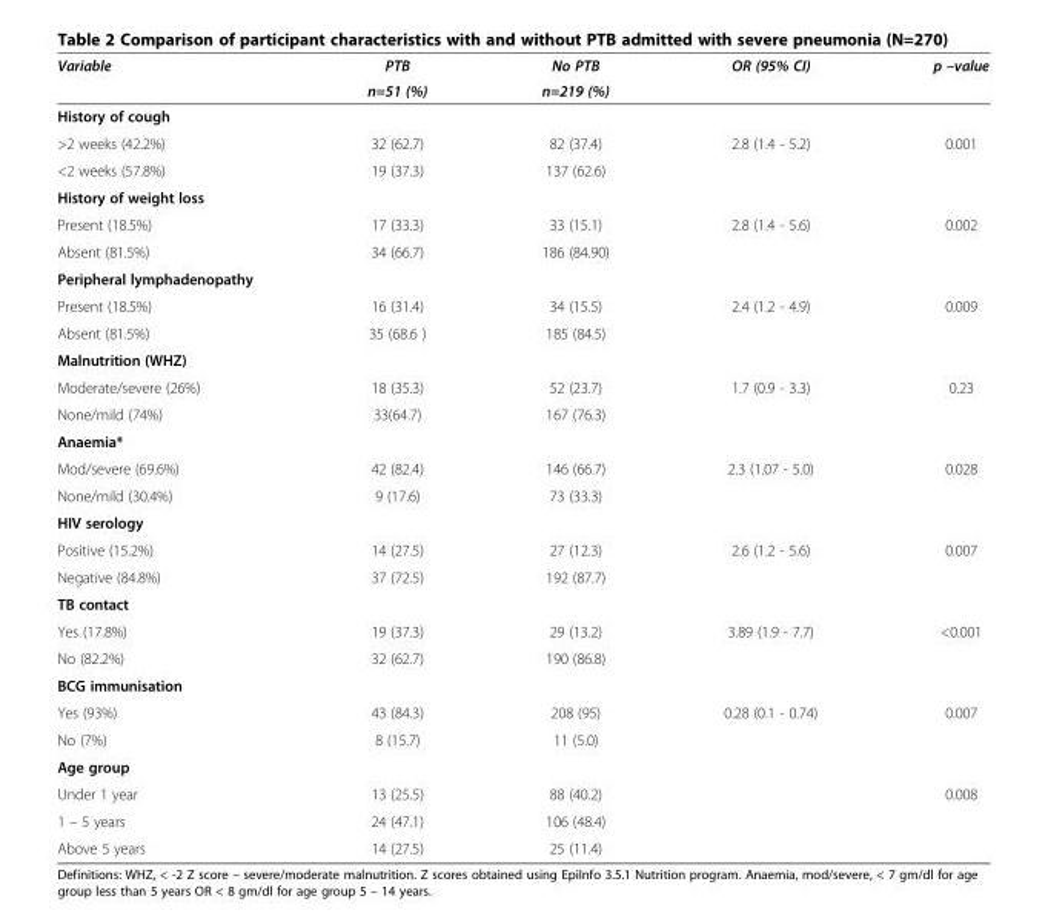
<table><thead><tr><td rowspan="2">Variable</td><td rowspan="2">PTB n=51 (%)</td><td rowspan="2">No PTB n=219 (%)</td><td rowspan="2">OR (95% CI)</td><td rowspan="2">p –value</td></tr><tr></tr></thead><tbody><tr><td colspan="5">History of cough</td></tr><tr><td>&gt;2 weeks (42.2%)</td><td>32 (62.7)</td><td>82 (37.4)</td><td rowspan="2">2.8 (1.4 - 5.2)</td><td rowspan="2">0.001</td></tr><tr><td>&lt;2 weeks (57.8%)</td><td>19 (37.3)</td><td>137 (62.6)</td></tr><tr><td colspan="5">History of weight loss</td></tr><tr><td>Present (18.5%)</td><td>17 (33.3)</td><td>33 (15.1)</td><td rowspan="2">2.8 (1.4 - 5.6)</td><td rowspan="2">0.002</td></tr><tr><td>Absent (81.5%)</td><td>34 (66.7)</td><td>186 (84.90)</td></tr><tr><td colspan="5">Peripheral lymphadenopathy</td></tr><tr><td>Present (18.5%)</td><td>16 (31.4)</td><td>34 (15.5)</td><td rowspan="2">2.4 (1.2 - 4.9)</td><td rowspan="2">0.009</td></tr><tr><td>Absent (81.5%)</td><td>35 (68.6 )</td><td>185 (84.5)</td></tr><tr><td colspan="5">Malnutrition (WHZ)</td></tr><tr><td>Moderate/severe (26%)</td><td>18 (35.3)</td><td>52 (23.7)</td><td rowspan="2">1.7 (0.9 - 3.3)</td><td rowspan="2">0.23</td></tr><tr><td>None/mild (74%)</td><td>33(64.7)</td><td>167 (76.3)</td></tr><tr><td colspan="5">Anaemia*</td></tr><tr><td>Mod/severe (69.6%)</td><td>42 (82.4)</td><td>146 (66.7)</td><td rowspan="2">2.3 (1.07 - 5.0)</td><td rowspan="2">0.028</td></tr><tr><td>None/mild (30.4%)</td><td>9 (17.6)</td><td>73 (33.3)</td></tr><tr><td colspan="5">HIV serology</td></tr><tr><td>Positive (15.2%)</td><td>14 (27.5)</td><td>27 (12.3)</td><td rowspan="2">2.6 (1.2 - 5.6)</td><td rowspan="2">0.007</td></tr><tr><td>Negative (84.8%)</td><td>37 (72.5)</td><td>192 (87.7)</td></tr><tr><td colspan="5">TB contact</td></tr><tr><td>Yes (17.8%)</td><td>19 (37.3)</td><td>29 (13.2)</td><td rowspan="2">3.89 (1.9 - 7.7)</td><td rowspan="2">&lt;0.001</td></tr><tr><td>No (82.2%)</td><td>32 (62.7)</td><td>190 (86.8)</td></tr><tr><td colspan="5">BCG immunisation</td></tr><tr><td>Yes (93%)</td><td>43 (84.3)</td><td>208 (95)</td><td rowspan="2">0.28 (0.1 - 0.74)</td><td rowspan="2">0.007</td></tr><tr><td>No (7%)</td><td>8 (15.7)</td><td>11 (5.0)</td></tr><tr><td colspan="5">Age group</td></tr><tr><td>Under 1 year</td><td>13 (25.5)</td><td>88 (40.2)</td><td></td><td rowspan="2">0.008</td></tr><tr><td>1 – 5 years</td><td>24 (47.1)</td><td>106 (48.4)</td><td></td></tr><tr><td>Above 5 years</td><td>14 (27.5)</td><td>25 (11.4)</td><td></td><td></td></tr></tbody></table>